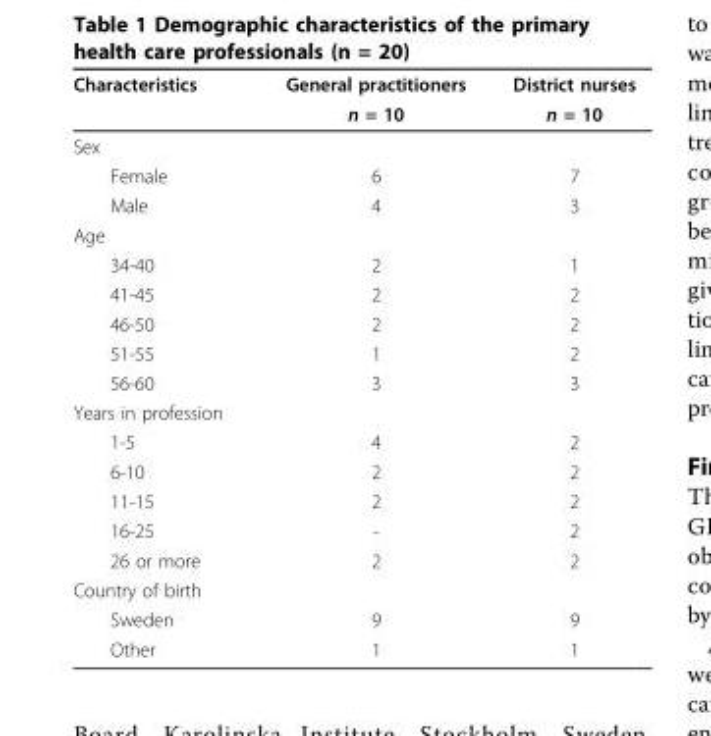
<table><thead><tr><td rowspan="2">Characteristics</td><td rowspan="2">General practitioners n = 10</td><td rowspan="2">District nurses n = 10</td></tr><tr></tr></thead><tbody><tr><td colspan="3">Sex</td></tr><tr><td>Female</td><td>6</td><td>7</td></tr><tr><td>Male</td><td>4</td><td>3</td></tr><tr><td colspan="3">Age</td></tr><tr><td>34-40</td><td>2</td><td>1</td></tr><tr><td>41-45</td><td>2</td><td>2</td></tr><tr><td>46-50</td><td>2</td><td>2</td></tr><tr><td>51-55</td><td>1</td><td>2</td></tr><tr><td>56-60</td><td>3</td><td>3</td></tr><tr><td colspan="3">Years in profession</td></tr><tr><td>1-5</td><td>4</td><td>2</td></tr><tr><td>6-10</td><td>2</td><td>2</td></tr><tr><td>11-15</td><td>2</td><td>2</td></tr><tr><td>16-25</td><td>-</td><td>2</td></tr><tr><td>26 or more</td><td>2</td><td>2</td></tr><tr><td colspan="3">Country of birth</td></tr><tr><td>Sweden</td><td>9</td><td>9</td></tr><tr><td>Other</td><td>1</td><td>1</td></tr></tbody></table>